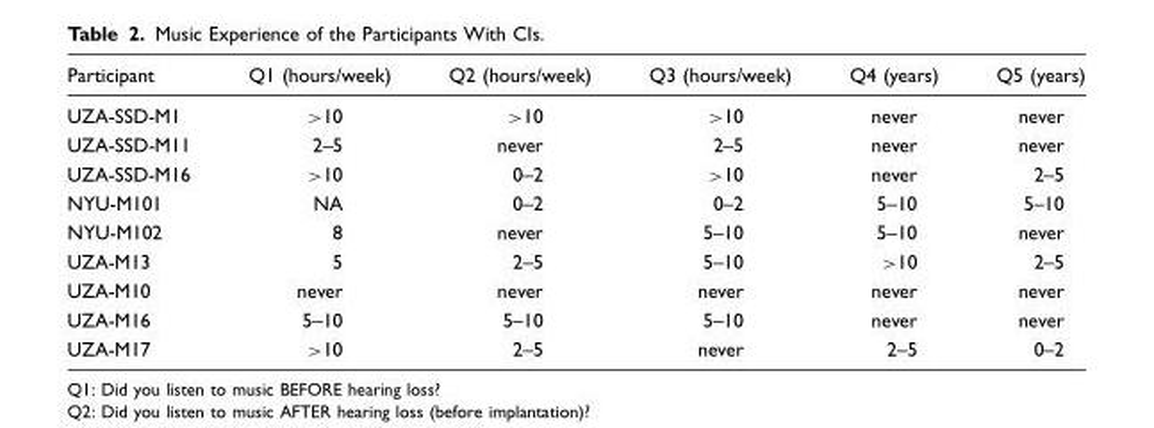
<table><thead><tr><td>Participant</td><td>Q1 (hours/week)</td><td>Q2 (hours/week)</td><td>Q3 (hours/week)</td><td>Q4 (years)</td><td>Q5 (years)</td></tr></thead><tbody><tr><td>UZA-SSD-M1</td><td>&gt;10</td><td>&gt;10</td><td>&gt;10</td><td>never</td><td>never</td></tr><tr><td>UZA-SSD-M11</td><td>2–5</td><td>never</td><td>2–5</td><td>never</td><td>never</td></tr><tr><td>UZA-SSD-M16</td><td>&gt;10</td><td>0–2</td><td>&gt;10</td><td>never</td><td>2–5</td></tr><tr><td>NYU-M101</td><td>NA</td><td>0–2</td><td>0–2</td><td>5–10</td><td>5–10</td></tr><tr><td>NYU-M102</td><td>8</td><td>never</td><td>5–10</td><td>5–10</td><td>never</td></tr><tr><td>UZA-M13</td><td>5</td><td>2–5</td><td>5–10</td><td>&gt;10</td><td>2–5</td></tr><tr><td>UZA-M10</td><td>never</td><td>never</td><td>never</td><td>never</td><td>never</td></tr><tr><td>UZA-M16</td><td>5–10</td><td>5–10</td><td>5–10</td><td>never</td><td>never</td></tr><tr><td>UZA-M17</td><td>&gt;10</td><td>2–5</td><td>never</td><td>2–5</td><td>0–2</td></tr></tbody></table>